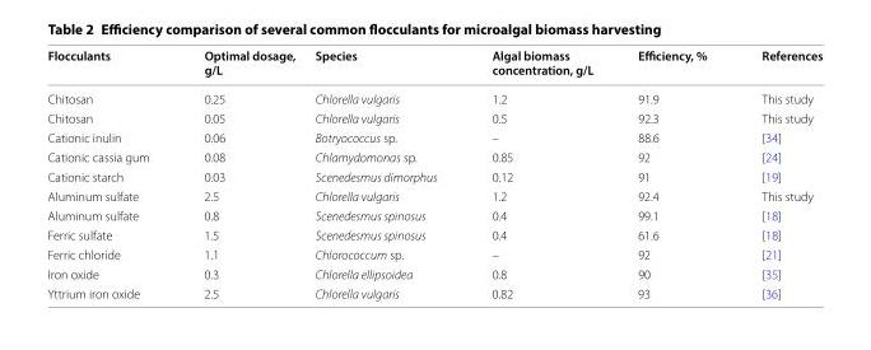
<table><thead><tr><td>Flocculants</td><td>Optimal dosage, g/L</td><td>Species</td><td>Algal biomass concentration, g/L</td><td>Efficiency, %</td><td>References</td></tr></thead><tbody><tr><td>Chitosan</td><td>0.25</td><td>Chlorella vulgaris</td><td>1.2</td><td>91.9</td><td>This study</td></tr><tr><td>Chitosan</td><td>0.05</td><td>Chlorella vulgaris</td><td>0.5</td><td>92.3</td><td>This study</td></tr><tr><td>Cationic inulin</td><td>0.06</td><td>Botryococcus sp.</td><td>–</td><td>88.6</td><td>[34]</td></tr><tr><td>Cationic cassia gum</td><td>0.08</td><td>Chlamydomonas sp.</td><td>0.85</td><td>92</td><td>[24]</td></tr><tr><td>Cationic starch</td><td>0.03</td><td>Scenedesmus dimorphus</td><td>0.12</td><td>91</td><td>[19]</td></tr><tr><td>Aluminum sulfate</td><td>2.5</td><td>Chlorella vulgaris</td><td>1.2</td><td>92.4</td><td>This study</td></tr><tr><td>Aluminum sulfate</td><td>0.8</td><td>Scenedesmus spinosus</td><td>0.4</td><td>99.1</td><td>[18]</td></tr><tr><td>Ferric sulfate</td><td>1.5</td><td>Scenedesmus spinosus</td><td>0.4</td><td>61.6</td><td>[18]</td></tr><tr><td>Ferric chloride</td><td>1.1</td><td>Chlorococcum sp.</td><td>–</td><td>92</td><td>[21]</td></tr><tr><td>Iron oxide</td><td>0.3</td><td>Chlorella ellipsoidea</td><td>0.8</td><td>90</td><td>[35]</td></tr><tr><td>Yttrium iron oxide</td><td>2.5</td><td>Chlorella vulgaris</td><td>0.82</td><td>93</td><td>[36]</td></tr></tbody></table>